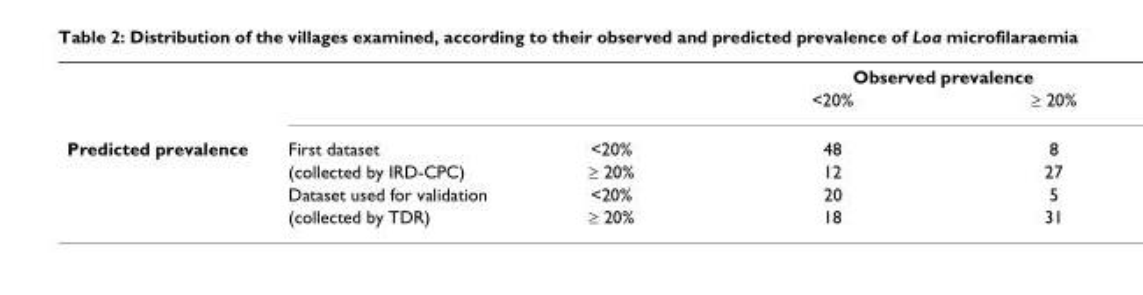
<table><thead><tr><td rowspan="2"></td><td rowspan="2"></td><td rowspan="2"></td><td colspan="2">Observed prevalence</td></tr><tr><td>&lt;20%</td><td>≥ 20%</td></tr></thead><tbody><tr><td rowspan="4">Predicted prevalence</td><td>First dataset</td><td>&lt;20%</td><td>48</td><td>8</td></tr><tr><td>(collected by IRD-CPC)</td><td>≥ 20%</td><td>12</td><td>27</td></tr><tr><td>Dataset used for validation</td><td>&lt;20%</td><td>20</td><td>5</td></tr><tr><td>(collected by TDR)</td><td>≥ 20%</td><td>18</td><td>31</td></tr></tbody></table>